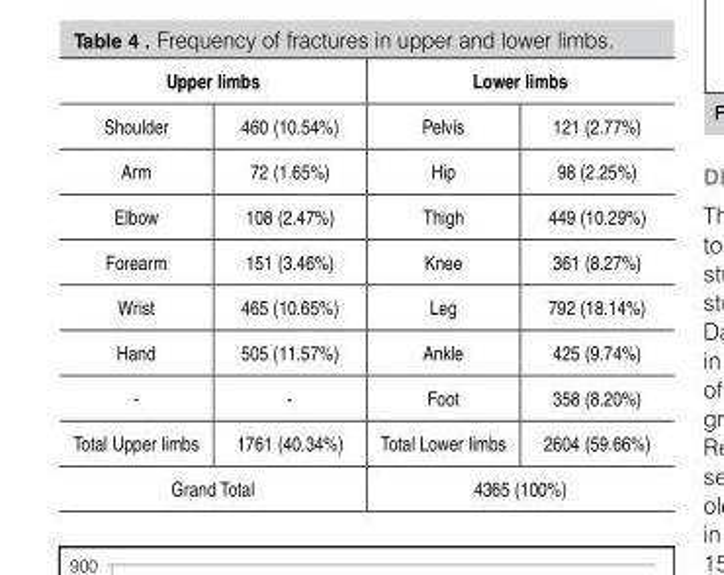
<table><thead><tr><td colspan="2">Upper limbs</td><td colspan="2">Lower limbs</td></tr><tr><td>Shoulder</td><td>460 (10.54%)</td><td>Pelvis</td><td>121 (2.77%)</td></tr></thead><tbody><tr><td>Arm</td><td>72 (1.65%)</td><td>Hip</td><td>98 (2.25%)</td></tr><tr><td>Elbow</td><td>108 (2.47%)</td><td>Thigh</td><td>449 (10.29%)</td></tr><tr><td>Forearm</td><td>151 (3.46%)</td><td>Knee</td><td>361 (8.27%)</td></tr><tr><td>Wrist</td><td>465 (10.65%)</td><td>Leg</td><td>792 (18.14%)</td></tr><tr><td>Hand</td><td>505 (11.57%)</td><td>Ankle</td><td>425 (9.74%)</td></tr><tr><td>-</td><td>-</td><td>Foot</td><td>358 (8.20%)</td></tr><tr><td>Total Upper limbs</td><td>1761 (40.34%)</td><td>Total Lower limbs</td><td>2604 (59.66%)</td></tr><tr><td colspan="2">Grand Total</td><td colspan="2">4365 (100%)</td></tr></tbody></table>